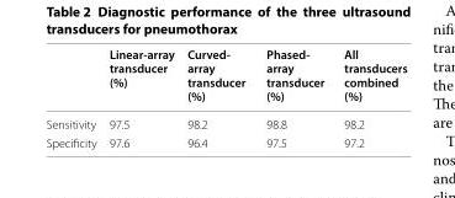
<table><thead><tr><td></td><td>Linear-array transducer (%)</td><td>Curved- array transducer (%)</td><td>Phased- array transducer (%)</td><td>All transducers combined (%)</td></tr></thead><tbody><tr><td>Sensitivity</td><td>97.5</td><td>98.2</td><td>98.8</td><td>98.2</td></tr><tr><td>Specificity</td><td>97.6</td><td>96.4</td><td>97.5</td><td>97.2</td></tr></tbody></table>